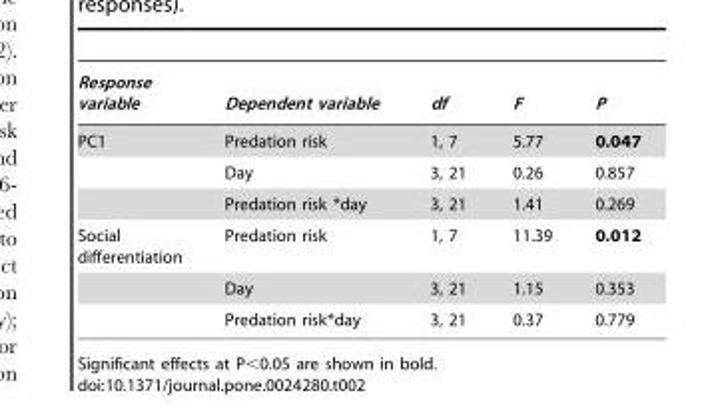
<table><thead><tr><td>Response variable</td><td>Dependent variable</td><td>df</td><td>F</td><td>P</td></tr></thead><tbody><tr><td rowspan="3">PC1</td><td>Predation risk</td><td>1, 7</td><td>5.77</td><td>0.047</td></tr><tr><td>Day</td><td>3, 21</td><td>0.26</td><td>0.857</td></tr><tr><td>Predation risk *day</td><td>3, 21</td><td>1.41</td><td>0.269</td></tr><tr><td rowspan="3">Social differentiation</td><td>Predation risk</td><td>1, 7</td><td>11.39</td><td>0.012</td></tr><tr><td>Day</td><td>3, 21</td><td>1.15</td><td>0.353</td></tr><tr><td>Predation risk*day</td><td>3, 21</td><td>0.37</td><td>0.779</td></tr></tbody></table>